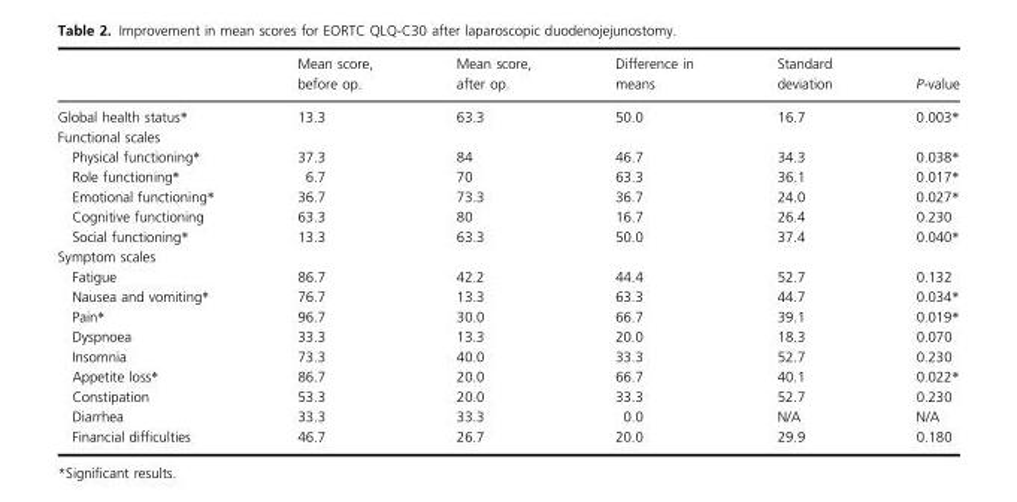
<table><thead><tr><td></td><td>Mean score, before op.</td><td>Mean score, after op.</td><td>Difference in means</td><td>Standard deviation</td><td>P-value</td></tr></thead><tbody><tr><td>Global health status*</td><td>13.3</td><td>63.3</td><td>50.0</td><td>16.7</td><td>0.003*</td></tr><tr><td colspan="6">Functional scales</td></tr><tr><td>Physical functioning*</td><td>37.3</td><td>84</td><td>46.7</td><td>34.3</td><td>0.038*</td></tr><tr><td>Role functioning*</td><td>6.7</td><td>70</td><td>63.3</td><td>36.1</td><td>0.017*</td></tr><tr><td>Emotional functioning*</td><td>36.7</td><td>73.3</td><td>36.7</td><td>24.0</td><td>0.027*</td></tr><tr><td>Cognitive functioning</td><td>63.3</td><td>80</td><td>16.7</td><td>26.4</td><td>0.230</td></tr><tr><td>Social functioning*</td><td>13.3</td><td>63.3</td><td>50.0</td><td>37.4</td><td>0.040*</td></tr><tr><td colspan="6">Symptom scales</td></tr><tr><td>Fatigue</td><td>86.7</td><td>42.2</td><td>44.4</td><td>52.7</td><td>0.132</td></tr><tr><td>Nausea and vomiting*</td><td>76.7</td><td>13.3</td><td>63.3</td><td>44.7</td><td>0.034*</td></tr><tr><td>Pain*</td><td>96.7</td><td>30.0</td><td>66.7</td><td>39.1</td><td>0.019*</td></tr><tr><td>Dyspnoea</td><td>33.3</td><td>13.3</td><td>20.0</td><td>18.3</td><td>0.070</td></tr><tr><td>Insomnia</td><td>73.3</td><td>40.0</td><td>33.3</td><td>52.7</td><td>0.230</td></tr><tr><td>Appetite loss*</td><td>86.7</td><td>20.0</td><td>66.7</td><td>40.1</td><td>0.022*</td></tr><tr><td>Constipation</td><td>53.3</td><td>20.0</td><td>33.3</td><td>52.7</td><td>0.230</td></tr><tr><td>Diarrhea</td><td>33.3</td><td>33.3</td><td>0.0</td><td>N/A</td><td>N/A</td></tr><tr><td>Financial difficulties</td><td>46.7</td><td>26.7</td><td>20.0</td><td>29.9</td><td>0.180</td></tr></tbody></table>